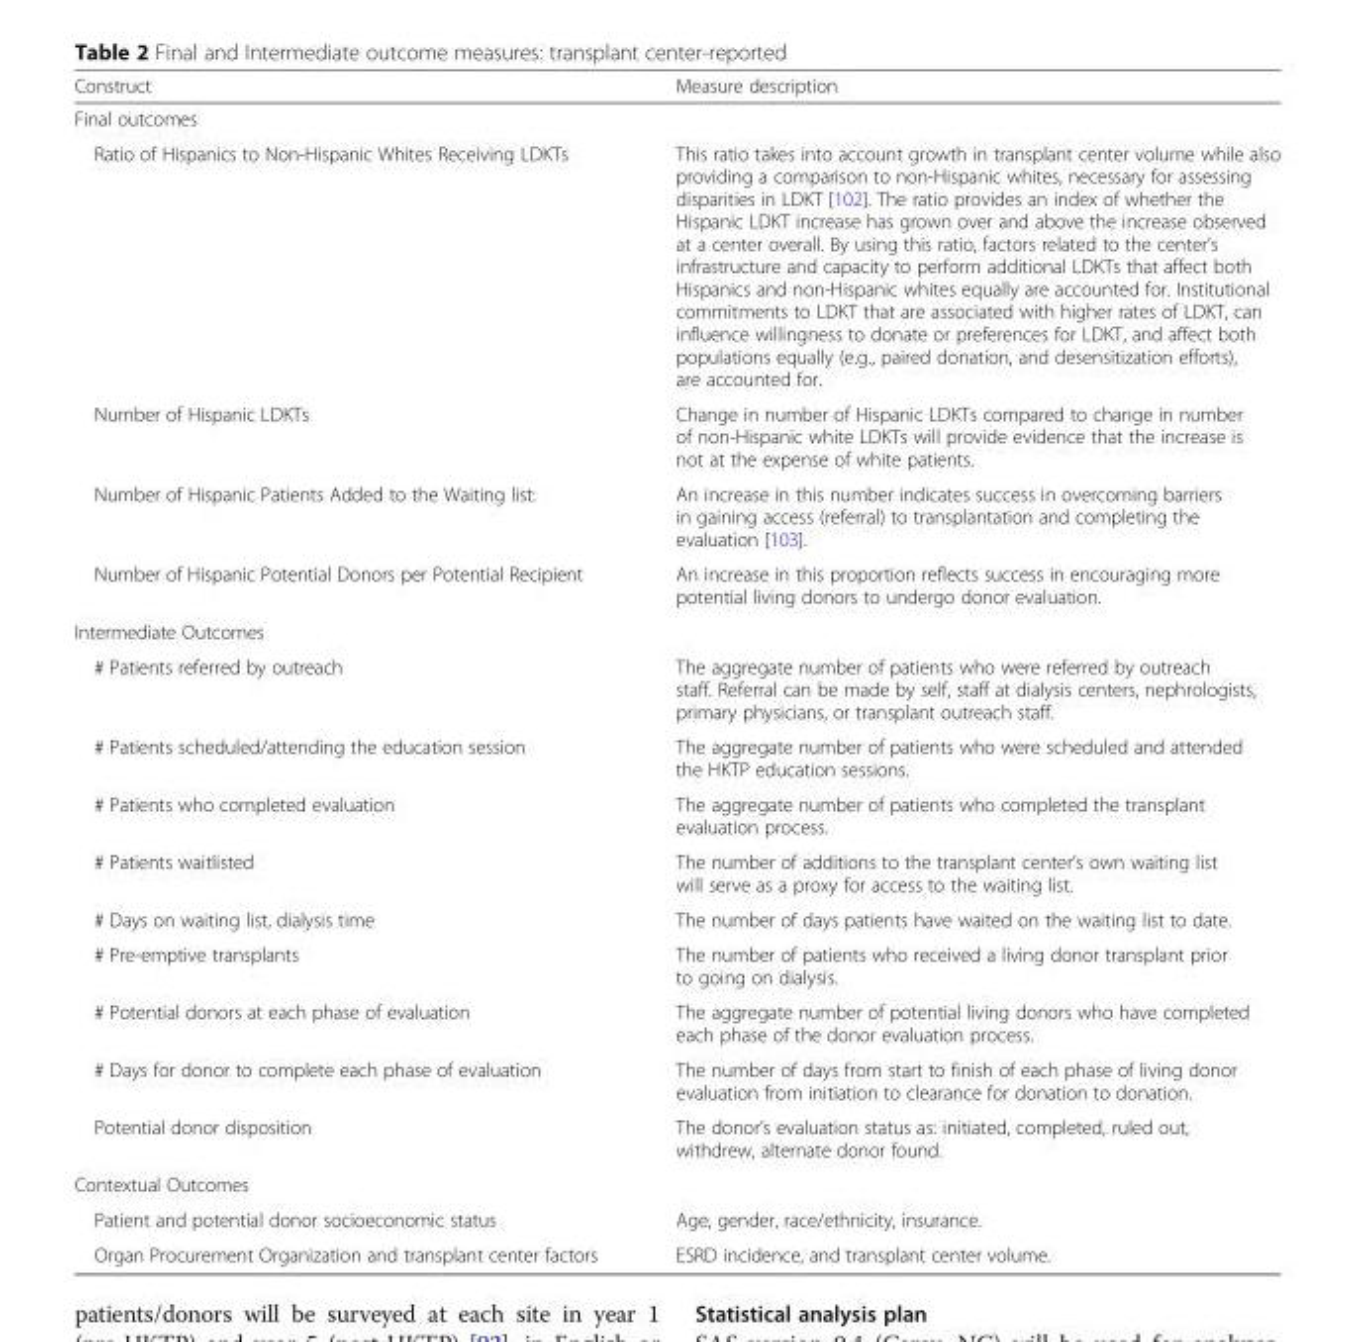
<table><thead><tr><td>Construct</td><td>Measure description</td></tr></thead><tbody><tr><td colspan="2">Final outcomes</td></tr><tr><td>Ratio of Hispanics to Non-Hispanic Whites Receiving LDKTs</td><td>This ratio takes into account growth in transplant center volume while also providing a comparison to non-Hispanic whites, necessary for assessing disparities in LDKT [102]. The ratio provides an index of whether the Hispanic LDKT increase has grown over and above the increase observed at a center overall. By using this ratio, factors related to the center’s infrastructure and capacity to perform additional LDKTs that affect both Hispanics and non-Hispanic whites equally are accounted for. Institutional commitments to LDKT that are associated with higher rates of LDKT, can influence willingness to donate or preferences for LDKT, and affect both populations equally (e.g., paired donation, and desensitization efforts), are accounted for.</td></tr><tr><td>Number of Hispanic LDKTs</td><td>Change in number of Hispanic LDKTs compared to change in number of non-Hispanic white LDKTs will provide evidence that the increase is not at the expense of white patients.</td></tr><tr><td>Number of Hispanic Patients Added to the Waiting list:</td><td>An increase in this number indicates success in overcoming barriers in gaining access (referral) to transplantation and completing the evaluation [103].</td></tr><tr><td>Number of Hispanic Potential Donors per Potential Recipient</td><td>An increase in this proportion reflects success in encouraging more potential living donors to undergo donor evaluation.</td></tr><tr><td colspan="2">Intermediate Outcomes</td></tr><tr><td># Patients referred by outreach</td><td>The aggregate number of patients who were referred by outreach staff. Referral can be made by self, staff at dialysis centers, nephrologists, primary physicians, or transplant outreach staff.</td></tr><tr><td># Patients scheduled/attending the education session</td><td>The aggregate number of patients who were scheduled and attended the HKTP education sessions.</td></tr><tr><td># Patients who completed evaluation</td><td>The aggregate number of patients who completed the transplant evaluation process.</td></tr><tr><td># Patients waitlisted</td><td>The number of additions to the transplant center’s own waiting list will serve as a proxy for access to the waiting list.</td></tr><tr><td># Days on waiting list, dialysis time</td><td>The number of days patients have waited on the waiting list to date.</td></tr><tr><td># Pre-emptive transplants</td><td>The number of patients who received a living donor transplant prior to going on dialysis.</td></tr><tr><td># Potential donors at each phase of evaluation</td><td>The aggregate number of potential living donors who have completed each phase of the donor evaluation process.</td></tr><tr><td># Days for donor to complete each phase of evaluation</td><td>The number of days from start to finish of each phase of living donor evaluation from initiation to clearance for donation to donation.</td></tr><tr><td>Potential donor disposition</td><td>The donor’s evaluation status as: initiated, completed, ruled out, withdrew, alternate donor found.</td></tr><tr><td colspan="2">Contextual Outcomes</td></tr><tr><td>Patient and potential donor socioeconomic status</td><td>Age, gender, race/ethnicity, insurance.</td></tr><tr><td>Organ Procurement Organization and transplant center factors</td><td>ESRD incidence, and transplant center volume.</td></tr></tbody></table>